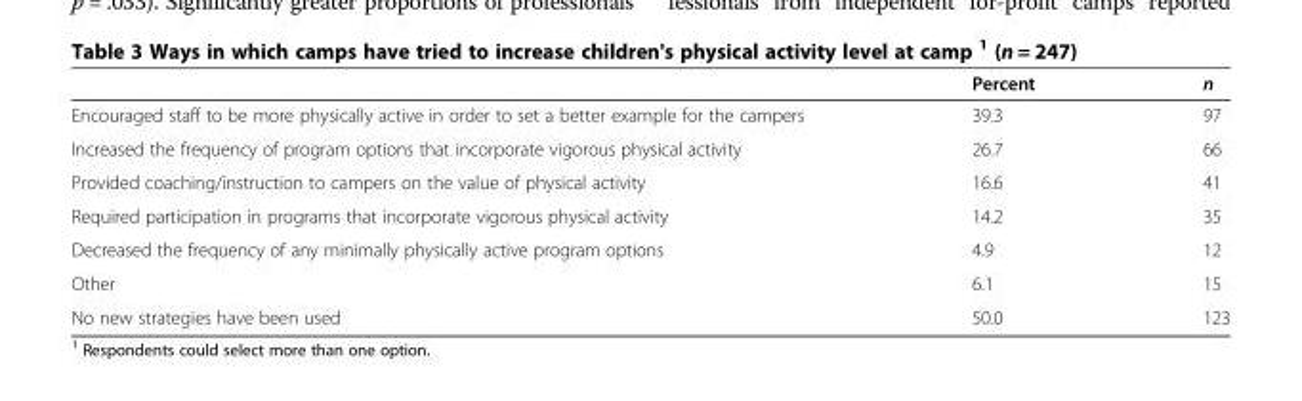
<table><thead><tr><td></td><td>Percent</td><td>n</td></tr></thead><tbody><tr><td>Encouraged staff to be more physically active in order to set a better example for the campers</td><td>39.3</td><td>97</td></tr><tr><td>Increased the frequency of program options that incorporate vigorous physical activity</td><td>26.7</td><td>66</td></tr><tr><td>Provided coaching/instruction to campers on the value of physical activity</td><td>16.6</td><td>41</td></tr><tr><td>Required participation in programs that incorporate vigorous physical activity</td><td>14.2</td><td>35</td></tr><tr><td>Decreased the frequency of any minimally physically active program options</td><td>4.9</td><td>12</td></tr><tr><td>Other</td><td>6.1</td><td>15</td></tr><tr><td>No new strategies have been used</td><td>50.0</td><td>123</td></tr></tbody></table>